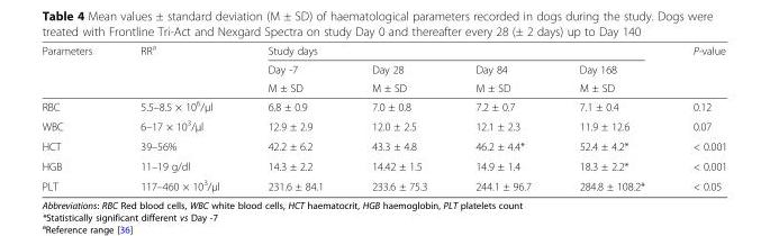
<table><thead><tr><td rowspan="3">Parameters</td><td rowspan="3">RR<sup>a</sup></td><td colspan="4">Study days</td><td rowspan="3">P-value</td></tr><tr><td rowspan="2">Day -7 M ± SD</td><td rowspan="2">Day 28 M ± SD</td><td rowspan="2">Day 84 M ± SD</td><td rowspan="2">Day 168 M ± SD</td></tr><tr></tr></thead><tbody><tr><td>RBC</td><td>5.5–8.5 × 10<sup>6</sup>/μl</td><td>6.8 ± 0.9</td><td>7.0 ± 0.8</td><td>7.2 ± 0.7</td><td>7.1 ± 0.4</td><td>0.12</td></tr><tr><td>WBC</td><td>6–17 × 10<sup>3</sup>/μl</td><td>12.9 ± 2.9</td><td>12.0 ± 2.5</td><td>12.1 ± 2.3</td><td>11.9 ± 12.6</td><td>0.07</td></tr><tr><td>HCT</td><td>39–56%</td><td>42.2 ± 6.2</td><td>43.3 ± 4.8</td><td>46.2 ± 4.4*</td><td>52.4 ± 4.2*</td><td>&lt; 0.001</td></tr><tr><td>HGB</td><td>11–19 g/dl</td><td>14.3 ± 2.2</td><td>14.42 ± 1.5</td><td>14.9 ± 1.4</td><td>18.3 ± 2.2*</td><td>&lt; 0.001</td></tr><tr><td>PLT</td><td>117–460 × 10<sup>3</sup>/μl</td><td>231.6 ± 84.1</td><td>233.6 ± 75.3</td><td>244.1 ± 96.7</td><td>284.8 ± 108.2*</td><td>&lt; 0.05</td></tr></tbody></table>